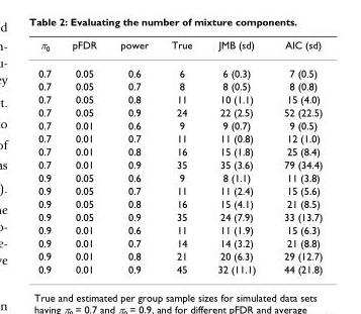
<table><thead><tr><td>π<sub>0</sub></td><td>pFDR</td><td>power</td><td>True</td><td>JMB (sd)</td><td>AIC (sd)</td></tr></thead><tbody><tr><td>0.7</td><td>0.05</td><td>0.6</td><td>6</td><td>6 (0.3)</td><td>7 (0.5)</td></tr><tr><td>0.7</td><td>0.05</td><td>0.7</td><td>8</td><td>8 (0.5)</td><td>8 (0.8)</td></tr><tr><td>0.7</td><td>0.05</td><td>0.8</td><td>11</td><td>10 (1.1)</td><td>15 (4.0)</td></tr><tr><td>0.7</td><td>0.05</td><td>0.9</td><td>24</td><td>22 (2.5)</td><td>52 (22.5)</td></tr><tr><td>0.7</td><td>0.01</td><td>0.6</td><td>9</td><td>9 (0.7)</td><td>9 (0.5)</td></tr><tr><td>0.7</td><td>0.01</td><td>0.7</td><td>11</td><td>11 (0.8)</td><td>12 (1.0)</td></tr><tr><td>0.7</td><td>0.01</td><td>0.8</td><td>16</td><td>15 (1.8)</td><td>25 (8.4)</td></tr><tr><td>0.7</td><td>0.01</td><td>0.9</td><td>35</td><td>35 (3.6)</td><td>79 (34.4)</td></tr><tr><td>0.9</td><td>0.05</td><td>0.6</td><td>9</td><td>8 (1.1)</td><td>11 (3.8)</td></tr><tr><td>0.9</td><td>0.05</td><td>0.7</td><td>11</td><td>11 (2.4)</td><td>15 (5.6)</td></tr><tr><td>0.9</td><td>0.05</td><td>0.8</td><td>16</td><td>15 (4.1)</td><td>21 (8.5)</td></tr><tr><td>0.9</td><td>0.05</td><td>0.9</td><td>35</td><td>24 (7.9)</td><td>33 (13.7)</td></tr><tr><td>0.9</td><td>0.01</td><td>0.6</td><td>11</td><td>11 (1.9)</td><td>15 (6.3)</td></tr><tr><td>0.9</td><td>0.01</td><td>0.7</td><td>14</td><td>14 (3.2)</td><td>21 (8.8)</td></tr><tr><td>0.9</td><td>0.01</td><td>0.8</td><td>21</td><td>20 (6.3)</td><td>29 (12.7)</td></tr><tr><td>0.9</td><td>0.01</td><td>0.9</td><td>45</td><td>32 (11.1)</td><td>44 (21.8)</td></tr></tbody></table>